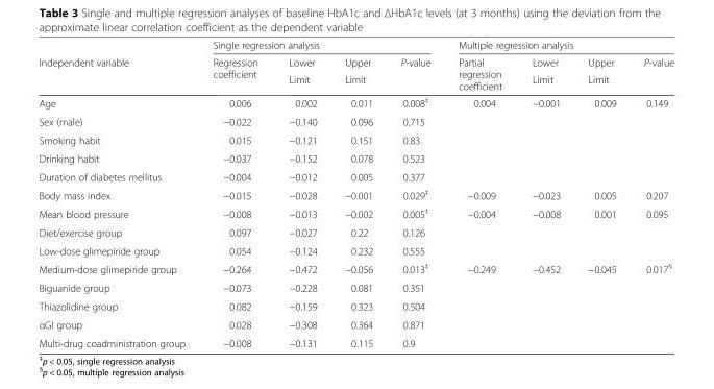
<table><thead><tr><td rowspan="3">Independent variable</td><td colspan="4">Single regression analysis</td><td colspan="4">Multiple regression analysis</td></tr><tr><td rowspan="2">Regression coefficient</td><td rowspan="2">Lower Limit</td><td rowspan="2">Upper Limit</td><td rowspan="2">P-value</td><td rowspan="2">Partial regression coefficient</td><td rowspan="2">Lower Limit</td><td rowspan="2">Upper Limit</td><td rowspan="2">P-value</td></tr><tr></tr></thead><tbody><tr><td>Age</td><td>0.006</td><td>0.002</td><td>0.011</td><td>0.008<sup>‡</sup></td><td>0.004</td><td>−0.001</td><td>0.009</td><td>0.149</td></tr><tr><td>Sex (male)</td><td>−0.022</td><td>−0.140</td><td>0.096</td><td>0.715</td><td></td><td></td><td></td><td></td></tr><tr><td>Smoking habit</td><td>0.015</td><td>−0.121</td><td>0.151</td><td>0.83</td><td></td><td></td><td></td><td></td></tr><tr><td>Drinking habit</td><td>−0.037</td><td>−0.152</td><td>0.078</td><td>0.523</td><td></td><td></td><td></td><td></td></tr><tr><td>Duration of diabetes mellitus</td><td>−0.004</td><td>−0.012</td><td>0.005</td><td>0.377</td><td></td><td></td><td></td><td></td></tr><tr><td>Body mass index</td><td>−0.015</td><td>−0.028</td><td>−0.001</td><td>0.029<sup>‡</sup></td><td>−0.009</td><td>−0.023</td><td>0.005</td><td>0.207</td></tr><tr><td>Mean blood pressure</td><td>−0.008</td><td>−0.013</td><td>−0.002</td><td>0.005<sup>‡</sup></td><td>−0.004</td><td>−0.008</td><td>0.001</td><td>0.095</td></tr><tr><td>Diet/exercise group</td><td>0.097</td><td>−0.027</td><td>0.22</td><td>0.126</td><td></td><td></td><td></td><td></td></tr><tr><td>Low-dose glimepiride group</td><td>0.054</td><td>−0.124</td><td>0.232</td><td>0.555</td><td></td><td></td><td></td><td></td></tr><tr><td>Medium-dose glimepiride group</td><td>−0.264</td><td>−0.472</td><td>−0.056</td><td>0.013<sup>‡</sup></td><td>−0.249</td><td>−0.452</td><td>−0.045</td><td>0.017<sup>§</sup></td></tr><tr><td>Biguanide group</td><td>−0.073</td><td>−0.228</td><td>0.081</td><td>0.351</td><td></td><td></td><td></td><td></td></tr><tr><td>Thiazolidine group</td><td>0.082</td><td>−0.159</td><td>0.323</td><td>0.504</td><td></td><td></td><td></td><td></td></tr><tr><td>αGI group</td><td>0.028</td><td>−0.308</td><td>0.364</td><td>0.871</td><td></td><td></td><td></td><td></td></tr><tr><td>Multi-drug coadministration group</td><td>−0.008</td><td>−0.131</td><td>0.115</td><td>0.9</td><td></td><td></td><td></td><td></td></tr></tbody></table>